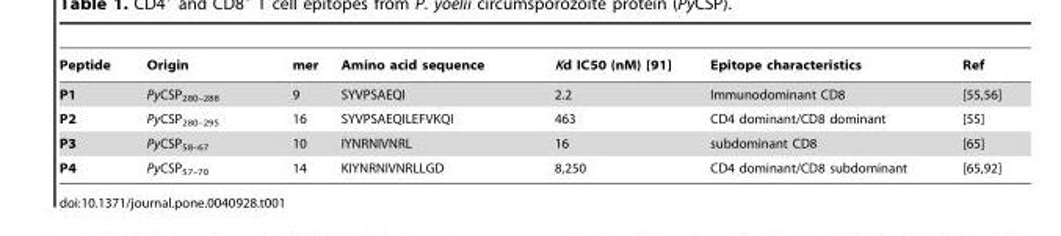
<table><thead><tr><td>Peptide</td><td>Origin</td><td>mer</td><td>Amino acid sequence</td><td>Kd IC50 (nM) [91]</td><td>Epitope characteristics</td><td>Ref</td></tr></thead><tbody><tr><td>P1</td><td>PyCSP<sub>280–288</sub></td><td>9</td><td>SYVPSAEQI</td><td>2.2</td><td>Immunodominant CD8</td><td>[55,56]</td></tr><tr><td>P2</td><td>PyCSP<sub>280–295</sub></td><td>16</td><td>SYVPSAEQILEFVKQI</td><td>463</td><td>CD4 dominant/CD8 dominant</td><td>[55]</td></tr><tr><td>P3</td><td>PyCSP<sub>58–67</sub></td><td>10</td><td>IYNRNIVNRL</td><td>16</td><td>subdominant CD8</td><td>[65]</td></tr><tr><td>P4</td><td>PyCSP<sub>57–70</sub></td><td>14</td><td>KIYNRNIVNRLLGD</td><td>8,250</td><td>CD4 dominant/CD8 subdominant</td><td>[65,92]</td></tr></tbody></table>